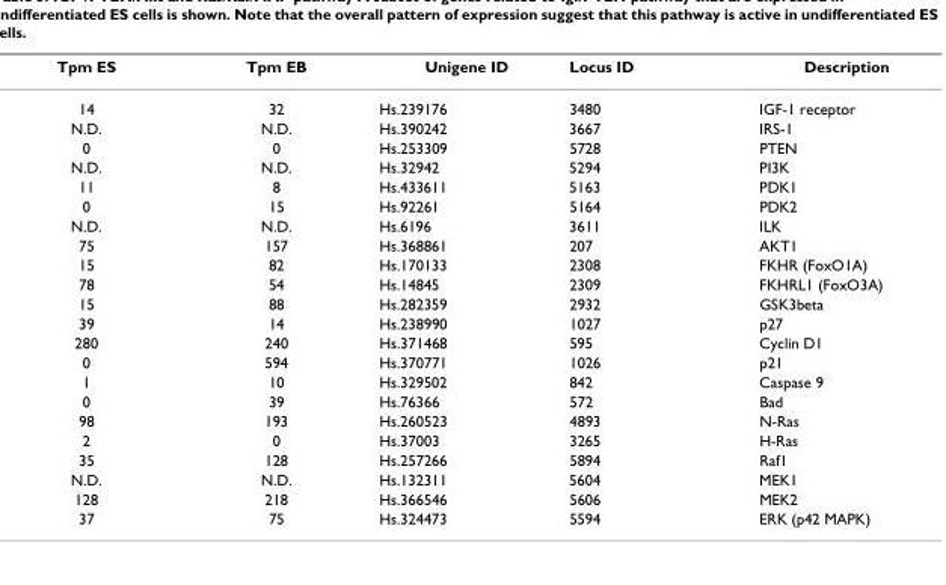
<table><thead><tr><td>Tpm ES</td><td>Tpm EB</td><td>Unigene ID</td><td>Locus ID</td><td>Description</td></tr></thead><tbody><tr><td>14</td><td>32</td><td>Hs.239176</td><td>3480</td><td>IGF-1 receptor</td></tr><tr><td>N.D.</td><td>N.D.</td><td>Hs.390242</td><td>3667</td><td>IRS-1</td></tr><tr><td>0</td><td>0</td><td>Hs.253309</td><td>5728</td><td>PTEN</td></tr><tr><td>N.D.</td><td>N.D.</td><td>Hs.32942</td><td>5294</td><td>PI3K</td></tr><tr><td>11</td><td>8</td><td>Hs.433611</td><td>5163</td><td>PDK1</td></tr><tr><td>0</td><td>15</td><td>Hs.92261</td><td>5164</td><td>PDK2</td></tr><tr><td>N.D.</td><td>N.D.</td><td>Hs.6196</td><td>3611</td><td>ILK</td></tr><tr><td>75</td><td>157</td><td>Hs.368861</td><td>207</td><td>AKT1</td></tr><tr><td>15</td><td>82</td><td>Hs.170133</td><td>2308</td><td>FKHR (FoxO1A)</td></tr><tr><td>78</td><td>54</td><td>Hs.14845</td><td>2309</td><td>FKHRL1 (FoxO3A)</td></tr><tr><td>15</td><td>88</td><td>Hs.282359</td><td>2932</td><td>GSK3beta</td></tr><tr><td>39</td><td>14</td><td>Hs.238990</td><td>1027</td><td>p27</td></tr><tr><td>280</td><td>240</td><td>Hs.371468</td><td>595</td><td>Cyclin D1</td></tr><tr><td>0</td><td>594</td><td>Hs.370771</td><td>1026</td><td>p21</td></tr><tr><td>1</td><td>10</td><td>Hs.329502</td><td>842</td><td>Caspase 9</td></tr><tr><td>0</td><td>39</td><td>Hs.76366</td><td>572</td><td>Bad</td></tr><tr><td>98</td><td>193</td><td>Hs.260523</td><td>4893</td><td>N-Ras</td></tr><tr><td>2</td><td>0</td><td>Hs.37003</td><td>3265</td><td>H-Ras</td></tr><tr><td>35</td><td>128</td><td>Hs.257266</td><td>5894</td><td>Raf1</td></tr><tr><td>N.D.</td><td>N.D.</td><td>Hs.132311</td><td>5604</td><td>MEK1</td></tr><tr><td>128</td><td>218</td><td>Hs.366546</td><td>5606</td><td>MEK2</td></tr><tr><td>37</td><td>75</td><td>Hs.324473</td><td>5594</td><td>ERK (p42 MAPK)</td></tr></tbody></table>